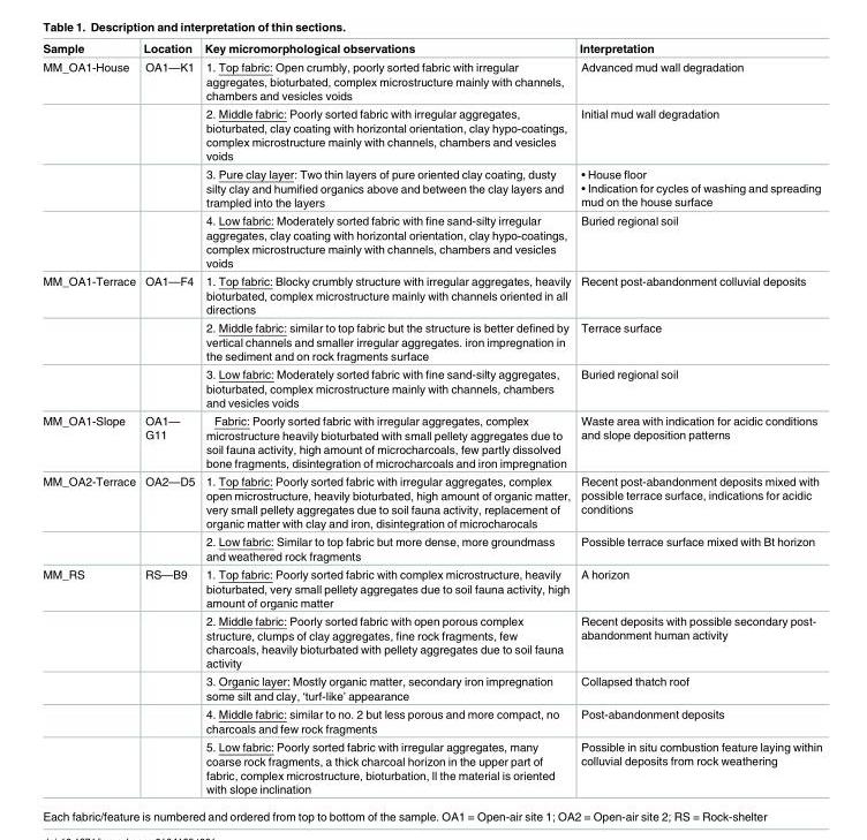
<table><thead><tr><td>Sample</td><td>Location</td><td>Key micromorphological observations</td><td>Interpretation</td></tr></thead><tbody><tr><td rowspan="4">MM_OA1-House</td><td>OA1—K1</td><td>1. Top fabric: Open crumbly, poorly sorted fabric with irregular aggregates, bioturbated, complex microstructure mainly with channels, chambers and vesicles voids</td><td>Advanced mud wall degradation</td></tr><tr><td></td><td>2. Middle fabric: Poorly sorted fabric with irregular aggregates, bioturbated, clay coating with horizontal orientation, clay hypo-coatings, complex microstructure mainly with channels, chambers and vesicles voids</td><td>Initial mud wall degradation</td></tr><tr><td></td><td>3. Pure clay layer: Two thin layers of pure oriented clay coating, dusty silty clay and humified organics above and between the clay layers and trampled into the layers</td><td>• House floor • Indication for cycles of washing and spreading mud on the house surface</td></tr><tr><td></td><td>4. Low fabric: Moderately sorted fabric with fine sand-silty irregular aggregates, clay coating with horizontal orientation, clay hypo-coatings, complex microstructure mainly with channels, chambers and vesicles voids</td><td>Buried regional soil</td></tr><tr><td rowspan="3">MM_OA1-Terrace</td><td>OA1—F4</td><td>1. Top fabric: Blocky crumbly structure with irregular aggregates, heavily bioturbated, complex microstructure mainly with channels oriented in all directions</td><td>Recent post-abandonment colluvial deposits</td></tr><tr><td></td><td>2. Middle fabric: similar to top fabric but the structure is better defined by vertical channels and smaller irregular aggregates. iron impregnation in the sediment and on rock fragments surface</td><td>Terrace surface</td></tr><tr><td></td><td>3. Low fabric: Moderately sorted fabric with fine sand-silty aggregates, bioturbated, complex microstructure mainly with channels, chambers and vesicles voids</td><td>Buried regional soil</td></tr><tr><td>MM_OA1-Slope</td><td>OA1— G11</td><td>Fabric: Poorly sorted fabric with irregular aggregates, complex microstructure heavily bioturbated with small pellety aggregates due to soil fauna activity, high amount of microcharcoals, few partly dissolved bone fragments, disintegration of microcharcoals and iron impregnation</td><td>Waste area with indication for acidic conditions and slope deposition patterns</td></tr><tr><td rowspan="2">MM_OA2-Terrace</td><td>OA2—D5</td><td>1. Top fabric: Poorly sorted fabric with irregular aggregates, complex open microstructure, heavily bioturbated, high amount of organic matter, very small pellety aggregates due to soil fauna activity, replacement of organic matter with clay and iron, disintegration of microcharocals</td><td>Recent post-abandonment deposits mixed with possible terrace surface, indications for acidic conditions</td></tr><tr><td></td><td>2. Low fabric: Similar to top fabric but more dense, more groundmass and weathered rock fragments</td><td>Possible terrace surface mixed with Bt horizon</td></tr><tr><td rowspan="5">MM_RS</td><td>RS—B9</td><td>1. Top fabric: Poorly sorted fabric with complex microstructure, heavily bioturbated, very small pellety aggregates due to soil fauna activity, high amount of organic matter</td><td>A horizon</td></tr><tr><td></td><td>2. Middle fabric: Poorly sorted fabric with open porous complex structure, clumps of clay aggregates, fine rock fragments, few charcoals, heavily bioturbated with pellety aggregates due to soil fauna activity</td><td>Recent deposits with possible secondary post- abandonment human activity</td></tr><tr><td></td><td>3. Organic layer: Mostly organic matter, secondary iron impregnation some silt and clay, ‘turf-like’ appearance</td><td>Collapsed thatch roof</td></tr><tr><td></td><td>4. Middle fabric: similar to no. 2 but less porous and more compact, no charcoals and few rock fragments</td><td>Post-abandonment deposits</td></tr><tr><td></td><td>5. Low fabric: Poorly sorted fabric with irregular aggregates, many coarse rock fragments, a thick charcoal horizon in the upper part of fabric, complex microstructure, bioturbation, ll the material is oriented with slope inclination</td><td>Possible in situ combustion feature laying within colluvial deposits from rock weathering</td></tr></tbody></table>